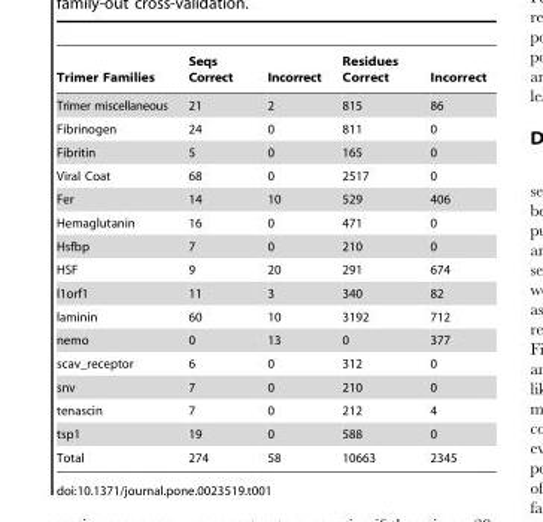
<table><thead><tr><td>Trimer Families</td><td>Seqs Correct</td><td>Incorrect</td><td>Residues Correct</td><td>Incorrect</td></tr></thead><tbody><tr><td>Trimer miscellaneous</td><td>21</td><td>2</td><td>815</td><td>86</td></tr><tr><td>Fibrinogen</td><td>24</td><td>0</td><td>811</td><td>0</td></tr><tr><td>Fibritin</td><td>5</td><td>0</td><td>165</td><td>0</td></tr><tr><td>Viral Coat</td><td>68</td><td>0</td><td>2517</td><td>0</td></tr><tr><td>Fer</td><td>14</td><td>10</td><td>529</td><td>406</td></tr><tr><td>Hemaglutanin</td><td>16</td><td>0</td><td>471</td><td>0</td></tr><tr><td>Hsfbp</td><td>7</td><td>0</td><td>210</td><td>0</td></tr><tr><td>HSF</td><td>9</td><td>20</td><td>291</td><td>674</td></tr><tr><td>l1orf1</td><td>11</td><td>3</td><td>340</td><td>82</td></tr><tr><td>laminin</td><td>60</td><td>10</td><td>3192</td><td>712</td></tr><tr><td>nemo</td><td>0</td><td>13</td><td>0</td><td>377</td></tr><tr><td>scav_receptor</td><td>6</td><td>0</td><td>312</td><td>0</td></tr><tr><td>snv</td><td>7</td><td>0</td><td>210</td><td>0</td></tr><tr><td>tenascin</td><td>7</td><td>0</td><td>212</td><td>4</td></tr><tr><td>tsp1</td><td>19</td><td>0</td><td>588</td><td>0</td></tr><tr><td>Total</td><td>274</td><td>58</td><td>10663</td><td>2345</td></tr></tbody></table>